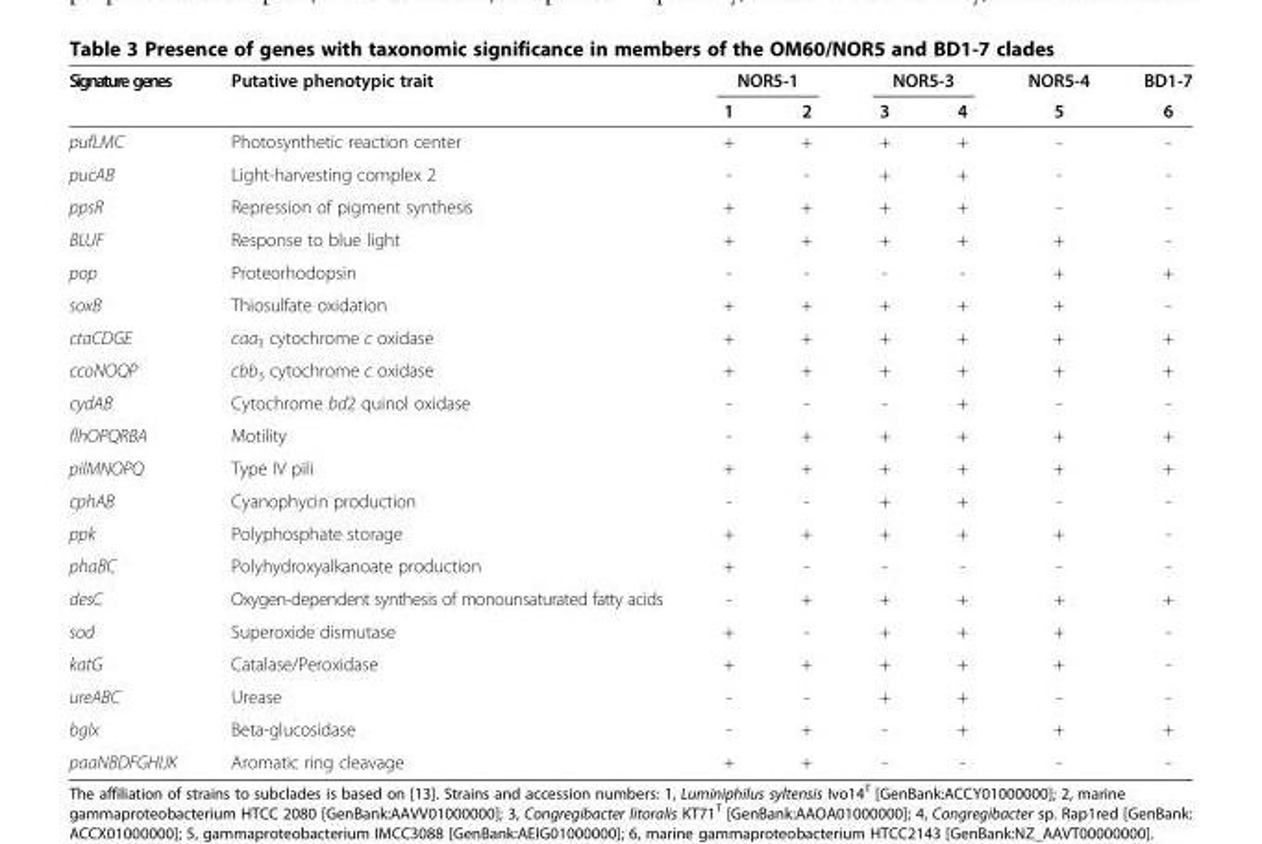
<table><thead><tr><td rowspan="2">Signature genes</td><td rowspan="2">Putative phenotypic trait</td><td colspan="2">NOR5-1</td><td colspan="2">NOR5-3</td><td rowspan="2">NOR5-4 5</td><td rowspan="2">BD1-7 6</td></tr><tr><td>1</td><td>2</td><td>3</td><td>4</td></tr></thead><tbody><tr><td>pufLMC</td><td>Photosynthetic reaction center</td><td>+</td><td>+</td><td>+</td><td>+</td><td>-</td><td>-</td></tr><tr><td>pucAB</td><td>Light-harvesting complex 2</td><td>-</td><td>-</td><td>+</td><td>+</td><td>-</td><td>-</td></tr><tr><td>ppsR</td><td>Repression of pigment synthesis</td><td>+</td><td>+</td><td>+</td><td>+</td><td>-</td><td>-</td></tr><tr><td>BLUF</td><td>Response to blue light</td><td>+</td><td>+</td><td>+</td><td>+</td><td>+</td><td>-</td></tr><tr><td>pop</td><td>Proteorhodopsin</td><td>-</td><td>-</td><td>-</td><td>-</td><td>+</td><td>+</td></tr><tr><td>soxB</td><td>Thiosulfate oxidation</td><td>+</td><td>+</td><td>+</td><td>+</td><td>+</td><td>-</td></tr><tr><td>ctaCDGE</td><td>caa<sub>3</sub> cytochrome c oxidase</td><td>+</td><td>+</td><td>+</td><td>+</td><td>+</td><td>+</td></tr><tr><td>ccoNOQP</td><td>cbb<sub>3</sub> cytochrome c oxidase</td><td>+</td><td>+</td><td>+</td><td>+</td><td>+</td><td>+</td></tr><tr><td>cydAB</td><td>Cytochrome bd2 quinol oxidase</td><td>-</td><td>-</td><td>-</td><td>+</td><td>-</td><td>-</td></tr><tr><td>flhOPQRBA</td><td>Motility</td><td>-</td><td>+</td><td>+</td><td>+</td><td>+</td><td>+</td></tr><tr><td>pilMNOPQ</td><td>Type IV pili</td><td>+</td><td>+</td><td>+</td><td>+</td><td>+</td><td>+</td></tr><tr><td>cphAB</td><td>Cyanophycin production</td><td>-</td><td>-</td><td>+</td><td>+</td><td>-</td><td>-</td></tr><tr><td>ppk</td><td>Polyphosphate storage</td><td>+</td><td>+</td><td>+</td><td>+</td><td>+</td><td>-</td></tr><tr><td>phaBC</td><td>Polyhydroxyalkanoate production</td><td>+</td><td>-</td><td>-</td><td>-</td><td>-</td><td>-</td></tr><tr><td>desC</td><td>Oxygen-dependent synthesis of monounsaturated fatty acids</td><td>-</td><td>+</td><td>+</td><td>+</td><td>+</td><td>+</td></tr><tr><td>sod</td><td>Superoxide dismutase</td><td>+</td><td>-</td><td>+</td><td>+</td><td>+</td><td>-</td></tr><tr><td>katG</td><td>Catalase/Peroxidase</td><td>+</td><td>+</td><td>+</td><td>+</td><td>+</td><td>-</td></tr><tr><td>ureABC</td><td>Urease</td><td>-</td><td>-</td><td>+</td><td>+</td><td>-</td><td>-</td></tr><tr><td>bglx</td><td>Beta-glucosidase</td><td>-</td><td>+</td><td>-</td><td>+</td><td>+</td><td>+</td></tr><tr><td>paaNBDFGHIJK</td><td>Aromatic ring cleavage</td><td>+</td><td>+</td><td>-</td><td>-</td><td>-</td><td>-</td></tr></tbody></table>